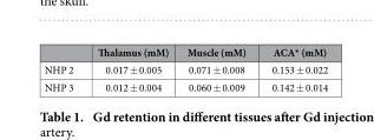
<table><thead><tr><td></td><td>Thalamus (mM)</td><td>Muscle (mM)</td><td>ACA* (mM)</td></tr></thead><tbody><tr><td>NHP 2</td><td>0.017 ± 0.005</td><td>0.071 ± 0.008</td><td>0.153 ± 0.022</td></tr><tr><td>NHP 3</td><td>0.012 ± 0.004</td><td>0.060 ± 0.009</td><td>0.142 ± 0.014</td></tr></tbody></table>